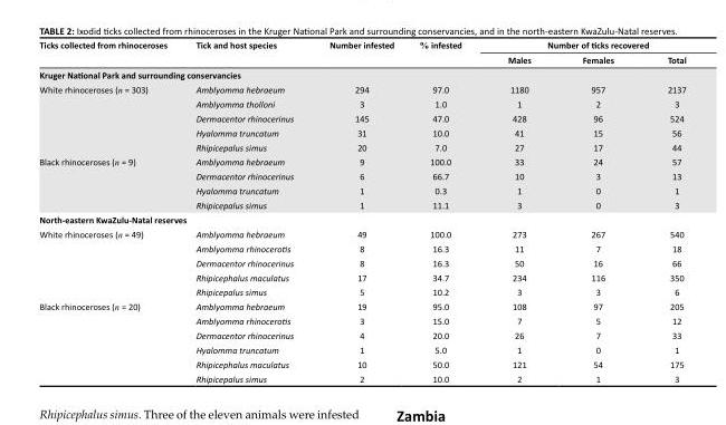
<table><thead><tr><td rowspan="2">Ticks collected from rhinoceroses</td><td rowspan="2">Tick and host species</td><td rowspan="2">Number infested</td><td rowspan="2">% infested</td><td colspan="3">Number of ticks recovered</td></tr><tr><td>Males</td><td>Females</td><td>Total</td></tr></thead><tbody><tr><td colspan="7">Kruger National Park and surrounding conservancies</td></tr><tr><td rowspan="5">White rhinoceroses (n = 303)</td><td>Amblyomma hebraeum</td><td>294</td><td>97.0</td><td>1180</td><td>957</td><td>2137</td></tr><tr><td>Amblyomma tholloni</td><td>3</td><td>1.0</td><td>1</td><td>2</td><td>3</td></tr><tr><td>Dermacentor rhinocerinus</td><td>145</td><td>47.0</td><td>428</td><td>96</td><td>524</td></tr><tr><td>Hyalomma truncatum</td><td>31</td><td>10.0</td><td>41</td><td>15</td><td>56</td></tr><tr><td>Rhipicepalus simus</td><td>20</td><td>7.0</td><td>27</td><td>17</td><td>44</td></tr><tr><td rowspan="4">Black rhinoceroses (n = 9)</td><td>Amblyomma hebraeum</td><td>9</td><td>100.0</td><td>33</td><td>24</td><td>57</td></tr><tr><td>Dermacentor rhinocerinus</td><td>6</td><td>66.7</td><td>10</td><td>3</td><td>13</td></tr><tr><td>Hyalomma truncatum</td><td>1</td><td>0.3</td><td>1</td><td>0</td><td>1</td></tr><tr><td>Rhipicepalus simus</td><td>1</td><td>11.1</td><td>3</td><td>0</td><td>3</td></tr><tr><td colspan="7">North-eastern KwaZulu-Natal reserves</td></tr><tr><td rowspan="5">White rhinoceroses (n = 49)</td><td>Amblyomma hebraeum</td><td>49</td><td>100.0</td><td>273</td><td>267</td><td>540</td></tr><tr><td>Amblyomma rhinocerotis</td><td>8</td><td>16.3</td><td>11</td><td>7</td><td>18</td></tr><tr><td>Dermacentor rhinocerinus</td><td>8</td><td>16.3</td><td>50</td><td>16</td><td>66</td></tr><tr><td>Rhipicephalus maculatus</td><td>17</td><td>34.7</td><td>234</td><td>116</td><td>350</td></tr><tr><td>Rhipicepalus simus</td><td>5</td><td>10.2</td><td>3</td><td>3</td><td>6</td></tr><tr><td rowspan="6">Black rhinoceroses (n = 20)</td><td>Amblyomma hebraeum</td><td>19</td><td>95.0</td><td>108</td><td>97</td><td>205</td></tr><tr><td>Amblyomma rhinocerotis</td><td>3</td><td>15.0</td><td>7</td><td>5</td><td>12</td></tr><tr><td>Dermacentor rhinocerinus</td><td>4</td><td>20.0</td><td>26</td><td>7</td><td>33</td></tr><tr><td>Hyalomma truncatum</td><td>1</td><td>5.0</td><td>1</td><td>0</td><td>1</td></tr><tr><td>Rhipicephalus maculatus</td><td>10</td><td>50.0</td><td>121</td><td>54</td><td>175</td></tr><tr><td>Rhipicepalus simus</td><td>2</td><td>10.0</td><td>2</td><td>1</td><td>3</td></tr></tbody></table>